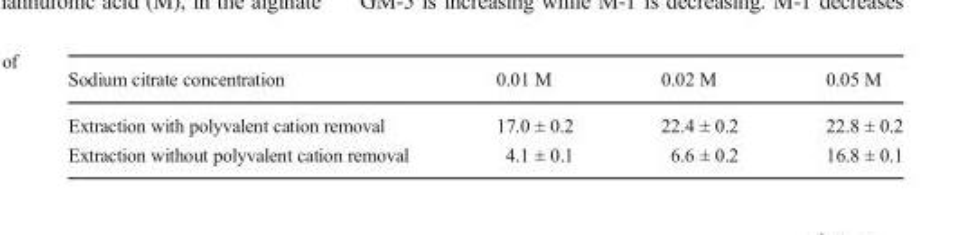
<table><thead><tr><td>Sodium citrate concentration</td><td>0.01 M</td><td>0.02 M</td><td>0.05 M</td></tr></thead><tbody><tr><td>Extraction with polyvalent cation removal</td><td>17.0 ± 0.2</td><td>22.4 ± 0.2</td><td>22.8 ± 0.2</td></tr><tr><td>Extraction without polyvalent cation removal</td><td>4.1 ± 0.1</td><td>6.6 ± 0.2</td><td>16.8 ± 0.1</td></tr></tbody></table>